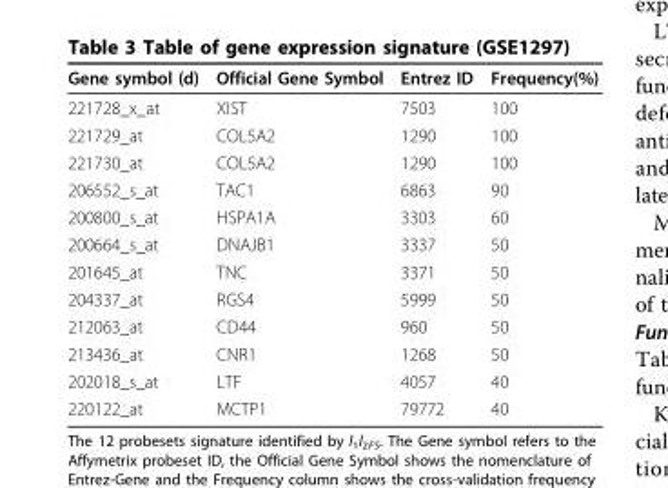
<table><thead><tr><td>Gene symbol (d)</td><td>Official Gene Symbol</td><td>Entrez ID</td><td>Frequency(%)</td></tr></thead><tbody><tr><td>221728_x_at</td><td>XIST</td><td>7503</td><td>100</td></tr><tr><td>221729_at</td><td>COL5A2</td><td>1290</td><td>100</td></tr><tr><td>221730_at</td><td>COL5A2</td><td>1290</td><td>100</td></tr><tr><td>206552_s_at</td><td>TAC1</td><td>6863</td><td>90</td></tr><tr><td>200800_s_at</td><td>HSPA1A</td><td>3303</td><td>60</td></tr><tr><td>200664_s_at</td><td>DNAJB1</td><td>3337</td><td>50</td></tr><tr><td>201645_at</td><td>TNC</td><td>3371</td><td>50</td></tr><tr><td>204337_at</td><td>RGS4</td><td>5999</td><td>50</td></tr><tr><td>212063_at</td><td>CD44</td><td>960</td><td>50</td></tr><tr><td>213436_at</td><td>CNR1</td><td>1268</td><td>50</td></tr><tr><td>202018_s_at</td><td>LTF</td><td>4057</td><td>40</td></tr><tr><td>220122_at</td><td>MCTP1</td><td>79772</td><td>40</td></tr></tbody></table>